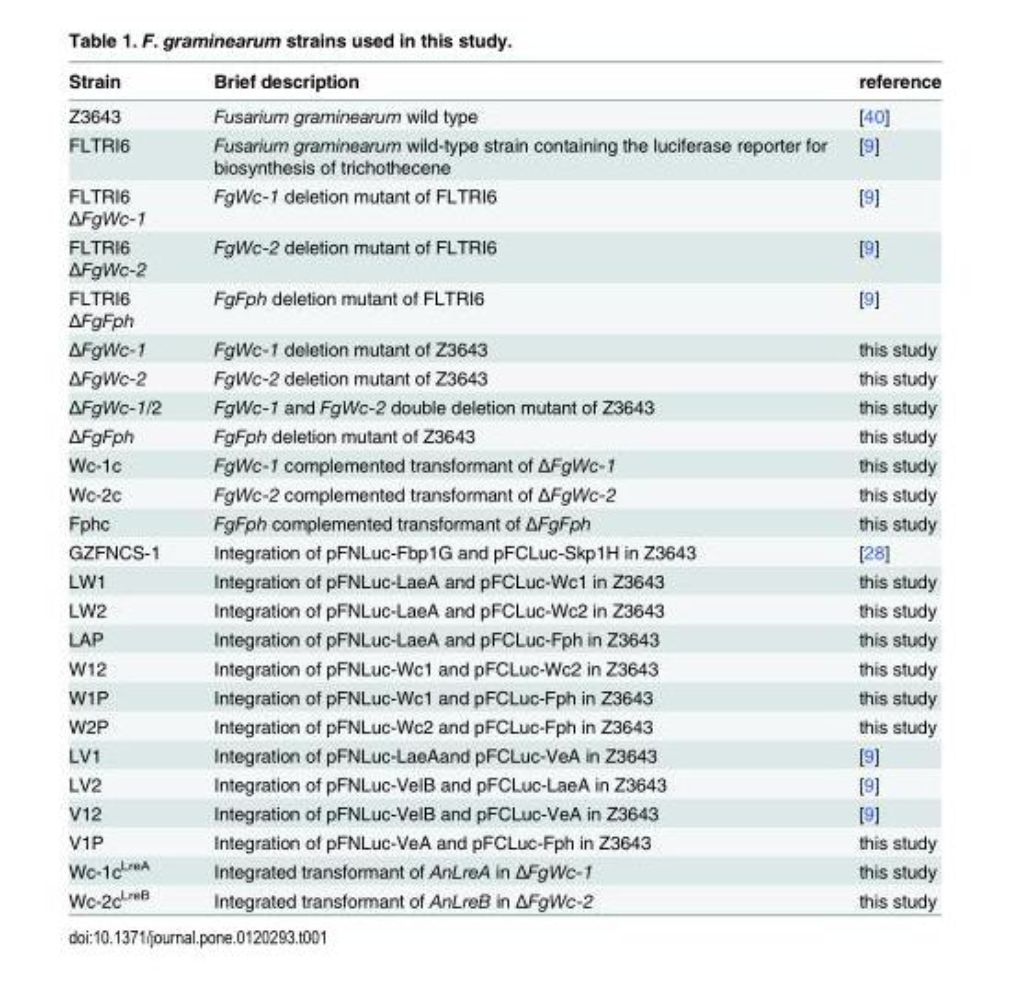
<table><thead><tr><td>Strain</td><td>Brief description</td><td>reference</td></tr></thead><tbody><tr><td>Z3643</td><td>Fusarium graminearum wild type</td><td>[40]</td></tr><tr><td>FLTRI6</td><td>Fusarium graminearum wild-type strain containing the luciferase reporter for biosynthesis of trichothecene</td><td>[9]</td></tr><tr><td>FLTRI6 ΔFgWc-1</td><td>FgWc-1 deletion mutant of FLTRI6</td><td>[9]</td></tr><tr><td>FLTRI6 ΔFgWc-2</td><td>FgWc-2 deletion mutant of FLTRI6</td><td>[9]</td></tr><tr><td>FLTRI6 ΔFgFph</td><td>FgFph deletion mutant of FLTRI6</td><td>[9]</td></tr><tr><td>ΔFgWc-1</td><td>FgWc-1 deletion mutant of Z3643</td><td>this study</td></tr><tr><td>ΔFgWc-2</td><td>FgWc-2 deletion mutant of Z3643</td><td>this study</td></tr><tr><td>ΔFgWc-1/2</td><td>FgWc-1 and FgWc-2 double deletion mutant of Z3643</td><td>this study</td></tr><tr><td>ΔFgFph</td><td>FgFph deletion mutant of Z3643</td><td>this study</td></tr><tr><td>Wc-1c</td><td>FgWc-1 complemented transformant of ΔFgWc-1</td><td>this study</td></tr><tr><td>Wc-2c</td><td>FgWc-2 complemented transformant of ΔFgWc-2</td><td>this study</td></tr><tr><td>Fphc</td><td>FgFph complemented transformant of ΔFgFph</td><td>this study</td></tr><tr><td>GZFNCS-1</td><td>Integration of pFNLuc-Fbp1G and pFCLuc-Skp1H in Z3643</td><td>[28]</td></tr><tr><td>LW1</td><td>Integration of pFNLuc-LaeA and pFCLuc-Wc1 in Z3643</td><td>this study</td></tr><tr><td>LW2</td><td>Integration of pFNLuc-LaeA and pFCLuc-Wc2 in Z3643</td><td>this study</td></tr><tr><td>LAP</td><td>Integration of pFNLuc-LaeA and pFCLuc-Fph in Z3643</td><td>this study</td></tr><tr><td>W12</td><td>Integration of pFNLuc-Wc1 and pFCLuc-Wc2 in Z3643</td><td>this study</td></tr><tr><td>W1P</td><td>Integration of pFNLuc-Wc1 and pFCLuc-Fph in Z3643</td><td>this study</td></tr><tr><td>W2P</td><td>Integration of pFNLuc-Wc2 and pFCLuc-Fph in Z3643</td><td>this study</td></tr><tr><td>LV1</td><td>Integration of pFNLuc-LaeAand pFCLuc-VeA in Z3643</td><td>[9]</td></tr><tr><td>LV2</td><td>Integration of pFNLuc-VelB and pFCLuc-LaeA in Z3643</td><td>[9]</td></tr><tr><td>V12</td><td>Integration of pFNLuc-VelB and pFCLuc-VeA in Z3643</td><td>[9]</td></tr><tr><td>V1P</td><td>Integration of pFNLuc-VeA and pFCLuc-Fph in Z3643</td><td>this study</td></tr><tr><td>Wc-1c<sup>LreA</sup></td><td>Integrated transformant of AnLreA in ΔFgWc-1</td><td>this study</td></tr><tr><td>Wc-2c<sup>LreB</sup></td><td>Integrated transformant of AnLreB in ΔFgWc-2</td><td>this study</td></tr></tbody></table>